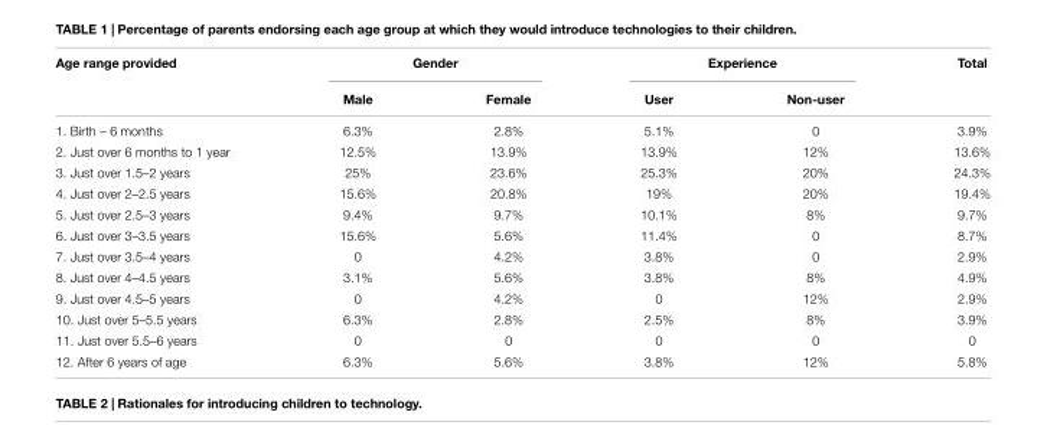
<table><thead><tr><td rowspan="2">Age range provided</td><td colspan="2">Gender</td><td colspan="2">Experience</td><td rowspan="2">Total</td></tr><tr><td>Male</td><td>Female</td><td>User</td><td>Non-user</td></tr></thead><tbody><tr><td>1. Birth – 6 months</td><td>6.3%</td><td>2.8%</td><td>5.1%</td><td>0</td><td>3.9%</td></tr><tr><td>2. Just over 6 months to 1 year</td><td>12.5%</td><td>13.9%</td><td>13.9%</td><td>12%</td><td>13.6%</td></tr><tr><td>3. Just over 1.5–2 years</td><td>25%</td><td>23.6%</td><td>25.3%</td><td>20%</td><td>24.3%</td></tr><tr><td>4. Just over 2–2.5 years</td><td>15.6%</td><td>20.8%</td><td>19%</td><td>20%</td><td>19.4%</td></tr><tr><td>5. Just over 2.5–3 years</td><td>9.4%</td><td>9.7%</td><td>10.1%</td><td>8%</td><td>9.7%</td></tr><tr><td>6. Just over 3–3.5 years</td><td>15.6%</td><td>5.6%</td><td>11.4%</td><td>0</td><td>8.7%</td></tr><tr><td>7. Just over 3.5–4 years</td><td>0</td><td>4.2%</td><td>3.8%</td><td>0</td><td>2.9%</td></tr><tr><td>8. Just over 4–4.5 years</td><td>3.1%</td><td>5.6%</td><td>3.8%</td><td>8%</td><td>4.9%</td></tr><tr><td>9. Just over 4.5–5 years</td><td>0</td><td>4.2%</td><td>0</td><td>12%</td><td>2.9%</td></tr><tr><td>10. Just over 5–5.5 years</td><td>6.3%</td><td>2.8%</td><td>2.5%</td><td>8%</td><td>3.9%</td></tr><tr><td>11. Just over 5.5–6 years</td><td>0</td><td>0</td><td>0</td><td>0</td><td>0</td></tr><tr><td>12. After 6 years of age</td><td>6.3%</td><td>5.6%</td><td>3.8%</td><td>12%</td><td>5.8%</td></tr></tbody></table>